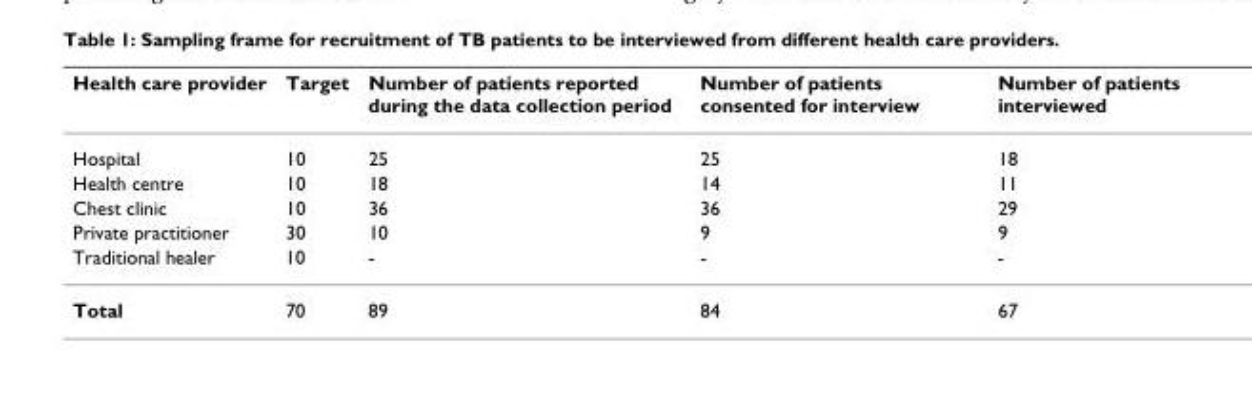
<table><thead><tr><td>Health care provider</td><td>Target</td><td>Number of patients reported during the data collection period</td><td>Number of patients consented for interview</td><td>Number of patients interviewed</td></tr></thead><tbody><tr><td>Hospital</td><td>10</td><td>25</td><td>25</td><td>18</td></tr><tr><td>Health centre</td><td>10</td><td>18</td><td>14</td><td>11</td></tr><tr><td>Chest clinic</td><td>10</td><td>36</td><td>36</td><td>29</td></tr><tr><td>Private practitioner</td><td>30</td><td>10</td><td>9</td><td>9</td></tr><tr><td>Traditional healer</td><td>10</td><td>-</td><td>-</td><td>-</td></tr><tr><td>Total</td><td>70</td><td>89</td><td>84</td><td>67</td></tr></tbody></table>